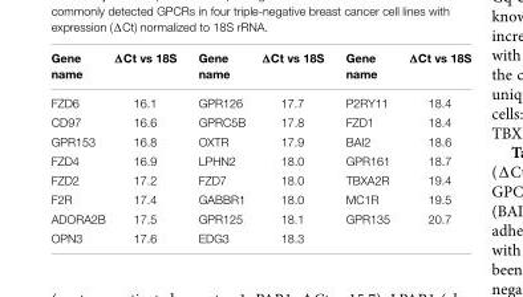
<table><thead><tr><td>Gene name</td><td>ΔCt vs 18S</td><td>Gene name</td><td>ΔCt vs 18S</td><td>Gene name</td><td>ΔCt vs 18S</td></tr></thead><tbody><tr><td>FZD6</td><td>16.1</td><td>GPR126</td><td>17.7</td><td>P2RY11</td><td>18.4</td></tr><tr><td>CD97</td><td>16.6</td><td>GPRC5B</td><td>17.8</td><td>FZD1</td><td>18.4</td></tr><tr><td>GPR153</td><td>16.8</td><td>OXTR</td><td>17.9</td><td>BAI2</td><td>18.6</td></tr><tr><td>FZD4</td><td>16.9</td><td>LPHN2</td><td>18.0</td><td>GPR161</td><td>18.7</td></tr><tr><td>FZD2</td><td>17.2</td><td>FZD7</td><td>18.0</td><td>TBXA2R</td><td>19.4</td></tr><tr><td>F2R</td><td>17.4</td><td>GABBR1</td><td>18.0</td><td>MC1R</td><td>19.5</td></tr><tr><td>ADORA2B</td><td>17.5</td><td>GPR125</td><td>18.1</td><td>GPR135</td><td>20.7</td></tr><tr><td>OPN3</td><td>17.6</td><td>EDG3</td><td>18.3</td><td></td><td></td></tr></tbody></table>